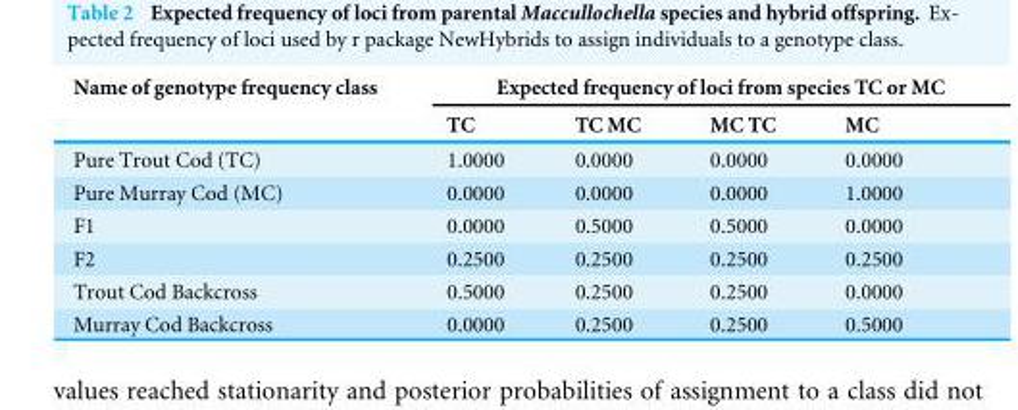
<table><thead><tr><td rowspan="2">Name of genotype frequency class</td><td colspan="4">Expected frequency of loci from species TC or MC</td></tr><tr><td>TC</td><td>TC MC</td><td>MC TC</td><td>MC</td></tr></thead><tbody><tr><td>Pure Trout Cod (TC)</td><td>1.0000</td><td>0.0000</td><td>0.0000</td><td>0.0000</td></tr><tr><td>Pure Murray Cod (MC)</td><td>0.0000</td><td>0.0000</td><td>0.0000</td><td>1.0000</td></tr><tr><td>F1</td><td>0.0000</td><td>0.5000</td><td>0.5000</td><td>0.0000</td></tr><tr><td>F2</td><td>0.2500</td><td>0.2500</td><td>0.2500</td><td>0.2500</td></tr><tr><td>Trout Cod Backcross</td><td>0.5000</td><td>0.2500</td><td>0.2500</td><td>0.0000</td></tr><tr><td>Murray Cod Backcross</td><td>0.0000</td><td>0.2500</td><td>0.2500</td><td>0.5000</td></tr></tbody></table>